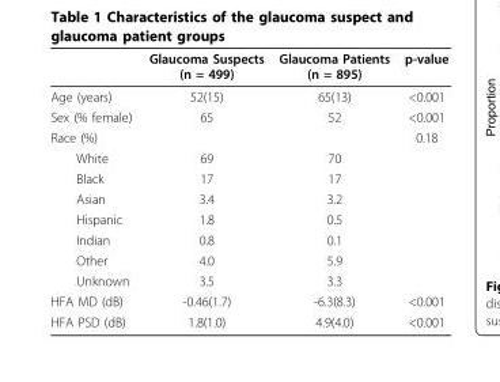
<table><thead><tr><td></td><td>Glaucoma Suspects (n = 499)</td><td>Glaucoma Patients (n = 895)</td><td>p-value</td></tr></thead><tbody><tr><td>Age (years)</td><td>52(15)</td><td>65(13)</td><td>&lt;0.001</td></tr><tr><td>Sex (% female)</td><td>65</td><td>52</td><td>&lt;0.001</td></tr><tr><td>Race (%)</td><td></td><td></td><td>0.18</td></tr><tr><td>White</td><td>69</td><td>70</td><td></td></tr><tr><td>Black</td><td>17</td><td>17</td><td></td></tr><tr><td>Asian</td><td>3.4</td><td>3.2</td><td></td></tr><tr><td>Hispanic</td><td>1.8</td><td>0.5</td><td></td></tr><tr><td>Indian</td><td>0.8</td><td>0.1</td><td></td></tr><tr><td>Other</td><td>4.0</td><td>5.9</td><td></td></tr><tr><td>Unknown</td><td>3.5</td><td>3.3</td><td></td></tr><tr><td>HFA MD (dB)</td><td>-0.46(1.7)</td><td>-6.3(8.3)</td><td>&lt;0.001</td></tr><tr><td>HFA PSD (dB)</td><td>1.8(1.0)</td><td>4.9(4.0)</td><td>&lt;0.001</td></tr></tbody></table>